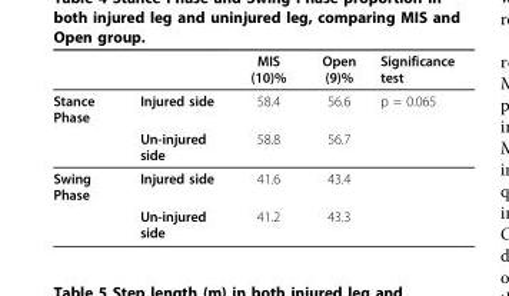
<table><thead><tr><td></td><td></td><td>MIS (10)%</td><td>Open (9)%</td><td>Significance test</td></tr></thead><tbody><tr><td rowspan="2">Stance Phase</td><td>Injured side</td><td>58.4</td><td>56.6</td><td>p = 0.065</td></tr><tr><td>Un-injured side</td><td>58.8</td><td>56.7</td><td></td></tr><tr><td rowspan="2">Swing Phase</td><td>Injured side</td><td>41.6</td><td>43.4</td><td></td></tr><tr><td>Un-injured side</td><td>41.2</td><td>43.3</td><td></td></tr></tbody></table>